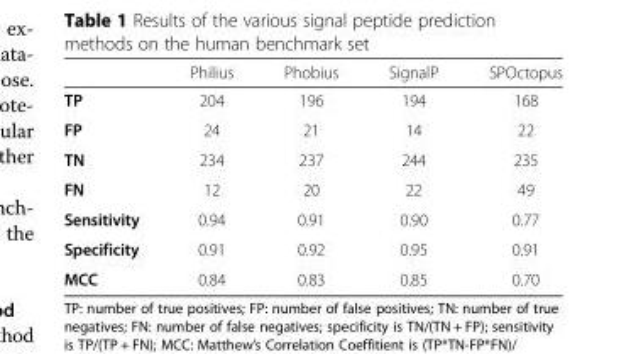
<table><thead><tr><td></td><td>Philius</td><td>Phobius</td><td>SignalP</td><td>SPOctopus</td></tr></thead><tbody><tr><td>TP</td><td>204</td><td>196</td><td>194</td><td>168</td></tr><tr><td>FP</td><td>24</td><td>21</td><td>14</td><td>22</td></tr><tr><td>TN</td><td>234</td><td>237</td><td>244</td><td>235</td></tr><tr><td>FN</td><td>12</td><td>20</td><td>22</td><td>49</td></tr><tr><td>Sensitivity</td><td>0.94</td><td>0.91</td><td>0.90</td><td>0.77</td></tr><tr><td>Specificity</td><td>0.91</td><td>0.92</td><td>0.95</td><td>0.91</td></tr><tr><td>MCC</td><td>0.84</td><td>0.83</td><td>0.85</td><td>0.70</td></tr></tbody></table>